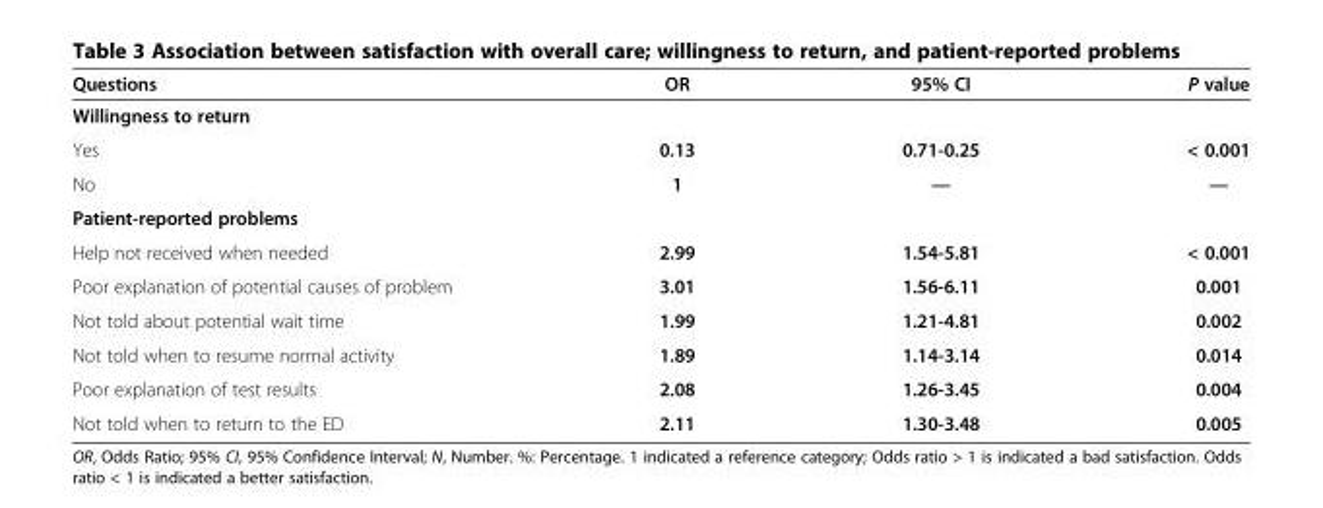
<table><thead><tr><td>Questions</td><td>OR</td><td>95% CI</td><td>P value</td></tr></thead><tbody><tr><td colspan="4">Willingness to return</td></tr><tr><td>Yes</td><td>0.13</td><td>0.71-0.25</td><td>&lt; 0.001</td></tr><tr><td>No</td><td>1</td><td>—</td><td>—</td></tr><tr><td colspan="4">Patient-reported problems</td></tr><tr><td>Help not received when needed</td><td>2.99</td><td>1.54-5.81</td><td>&lt; 0.001</td></tr><tr><td>Poor explanation of potential causes of problem</td><td>3.01</td><td>1.56-6.11</td><td>0.001</td></tr><tr><td>Not told about potential wait time</td><td>1.99</td><td>1.21-4.81</td><td>0.002</td></tr><tr><td>Not told when to resume normal activity</td><td>1.89</td><td>1.14-3.14</td><td>0.014</td></tr><tr><td>Poor explanation of test results</td><td>2.08</td><td>1.26-3.45</td><td>0.004</td></tr><tr><td>Not told when to return to the ED</td><td>2.11</td><td>1.30-3.48</td><td>0.005</td></tr></tbody></table>